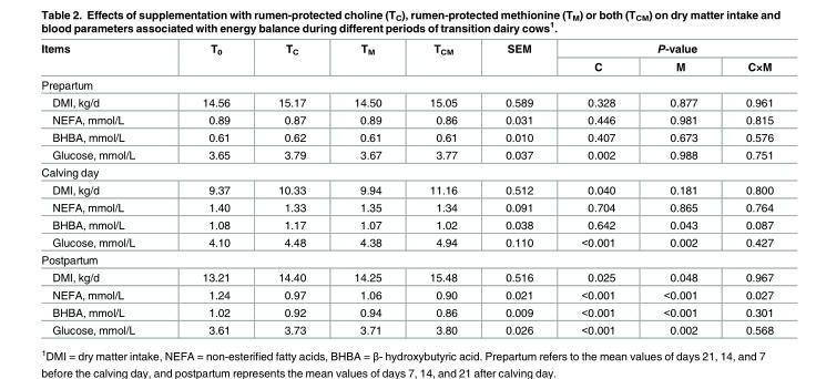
<table><thead><tr><td rowspan="2">Items</td><td rowspan="2">T<sub>0</sub></td><td rowspan="2">T<sub>C</sub></td><td rowspan="2">T<sub>M</sub></td><td rowspan="2">T<sub>CM</sub></td><td rowspan="2">SEM</td><td colspan="3">P-value</td></tr><tr><td>C</td><td>M</td><td>C×M</td></tr></thead><tbody><tr><td colspan="9">Prepartum</td></tr><tr><td>DMI, kg/d</td><td>14.56</td><td>15.17</td><td>14.50</td><td>15.05</td><td>0.589</td><td>0.328</td><td>0.877</td><td>0.961</td></tr><tr><td>NEFA, mmol/L</td><td>0.89</td><td>0.87</td><td>0.89</td><td>0.86</td><td>0.031</td><td>0.446</td><td>0.981</td><td>0.815</td></tr><tr><td>BHBA, mmol/L</td><td>0.61</td><td>0.62</td><td>0.61</td><td>0.61</td><td>0.010</td><td>0.407</td><td>0.673</td><td>0.576</td></tr><tr><td>Glucose, mmol/L</td><td>3.65</td><td>3.79</td><td>3.67</td><td>3.77</td><td>0.037</td><td>0.002</td><td>0.988</td><td>0.751</td></tr><tr><td colspan="9">Calving day</td></tr><tr><td>DMI, kg/d</td><td>9.37</td><td>10.33</td><td>9.94</td><td>11.16</td><td>0.512</td><td>0.040</td><td>0.181</td><td>0.800</td></tr><tr><td>NEFA, mmol/L</td><td>1.40</td><td>1.33</td><td>1.35</td><td>1.34</td><td>0.091</td><td>0.704</td><td>0.865</td><td>0.764</td></tr><tr><td>BHBA, mmol/L</td><td>1.08</td><td>1.17</td><td>1.07</td><td>1.02</td><td>0.038</td><td>0.642</td><td>0.043</td><td>0.087</td></tr><tr><td>Glucose, mmol/L</td><td>4.10</td><td>4.48</td><td>4.38</td><td>4.94</td><td>0.110</td><td>&lt;0.001</td><td>0.002</td><td>0.427</td></tr><tr><td colspan="9">Postpartum</td></tr><tr><td>DMI, kg/d</td><td>13.21</td><td>14.40</td><td>14.25</td><td>15.48</td><td>0.516</td><td>0.025</td><td>0.048</td><td>0.967</td></tr><tr><td>NEFA, mmol/L</td><td>1.24</td><td>0.97</td><td>1.06</td><td>0.90</td><td>0.021</td><td>&lt;0.001</td><td>&lt;0.001</td><td>0.027</td></tr><tr><td>BHBA, mmol/L</td><td>1.02</td><td>0.92</td><td>0.94</td><td>0.86</td><td>0.009</td><td>&lt;0.001</td><td>&lt;0.001</td><td>0.301</td></tr><tr><td>Glucose, mmol/L</td><td>3.61</td><td>3.73</td><td>3.71</td><td>3.80</td><td>0.026</td><td>&lt;0.001</td><td>0.002</td><td>0.568</td></tr></tbody></table>